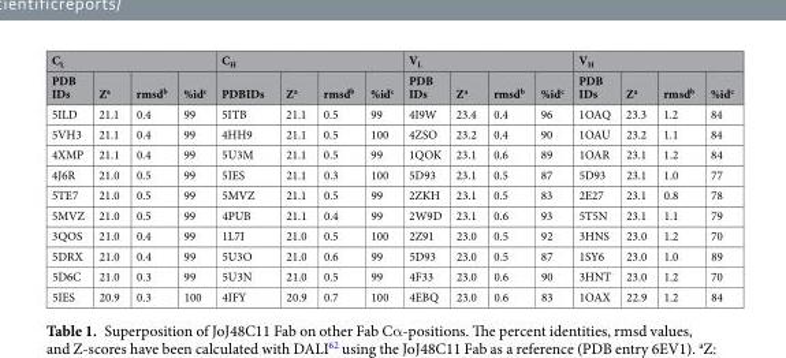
<table><thead><tr><td colspan="4">C<sub>L</sub></td><td colspan="4">C<sub>H</sub></td><td colspan="4">V<sub>L</sub></td><td colspan="4">V<sub>H</sub></td></tr><tr><td>PDB IDs</td><td>Z<sup>a</sup></td><td>rmsd<sup>b</sup></td><td>%id<sup>c</sup></td><td>PDBIDs</td><td>Z<sup>a</sup></td><td>rmsd<sup>b</sup></td><td>%id<sup>c</sup></td><td>PDB IDs</td><td>Z<sup>a</sup></td><td>rmsd<sup>b</sup></td><td>%id<sup>c</sup></td><td>PDB IDs</td><td>Z<sup>a</sup></td><td>rmsd<sup>b</sup></td><td>%id<sup>c</sup></td></tr></thead><tbody><tr><td>5ILD</td><td>21.1</td><td>0.4</td><td>99</td><td>5ITB</td><td>21.1</td><td>0.5</td><td>99</td><td>4I9W</td><td>23.4</td><td>0.4</td><td>96</td><td>1OAQ</td><td>23.3</td><td>1.2</td><td>84</td></tr><tr><td>5VH3</td><td>21.1</td><td>0.4</td><td>99</td><td>4HH9</td><td>21.1</td><td>0.5</td><td>100</td><td>4ZSO</td><td>23.2</td><td>0.4</td><td>90</td><td>1OAU</td><td>23.2</td><td>1.1</td><td>84</td></tr><tr><td>4XMP</td><td>21.1</td><td>0.4</td><td>99</td><td>5U3M</td><td>21.1</td><td>0.5</td><td>99</td><td>1QOK</td><td>23.1</td><td>0.6</td><td>89</td><td>1OAR</td><td>23.1</td><td>1.2</td><td>84</td></tr><tr><td>4J6R</td><td>21.0</td><td>0.5</td><td>99</td><td>5IES</td><td>21.1</td><td>0.3</td><td>100</td><td>5D93</td><td>23.1</td><td>0.5</td><td>87</td><td>5D93</td><td>23.1</td><td>1.0</td><td>77</td></tr><tr><td>5TE7</td><td>21.0</td><td>0.5</td><td>99</td><td>5MVZ</td><td>21.1</td><td>0.5</td><td>99</td><td>2ZKH</td><td>23.1</td><td>0.5</td><td>83</td><td>2E27</td><td>23.1</td><td>0.8</td><td>78</td></tr><tr><td>5MVZ</td><td>21.0</td><td>0.5</td><td>99</td><td>4PUB</td><td>21.1</td><td>0.4</td><td>99</td><td>2W9D</td><td>23.1</td><td>0.6</td><td>93</td><td>5T5N</td><td>23.1</td><td>1.1</td><td>79</td></tr><tr><td>3QOS</td><td>21.0</td><td>0.4</td><td>99</td><td>1L7I</td><td>21.0</td><td>0.5</td><td>100</td><td>2Z91</td><td>23.0</td><td>0.5</td><td>92</td><td>3HNS</td><td>23.0</td><td>1.2</td><td>70</td></tr><tr><td>5DRX</td><td>21.0</td><td>0.4</td><td>99</td><td>5U3O</td><td>21.0</td><td>0.6</td><td>99</td><td>5D93</td><td>23.0</td><td>0.5</td><td>87</td><td>1SY6</td><td>23.0</td><td>1.0</td><td>89</td></tr><tr><td>5D6C</td><td>21.0</td><td>0.3</td><td>99</td><td>5U3N</td><td>21.0</td><td>0.5</td><td>99</td><td>4F33</td><td>23.0</td><td>0.6</td><td>90</td><td>3HNT</td><td>23.0</td><td>1.2</td><td>70</td></tr><tr><td>5IES</td><td>20.9</td><td>0.3</td><td>100</td><td>4IFY</td><td>20.9</td><td>0.7</td><td>100</td><td>4EBQ</td><td>23.0</td><td>0.6</td><td>83</td><td>1OAX</td><td>22.9</td><td>1.2</td><td>84</td></tr></tbody></table>